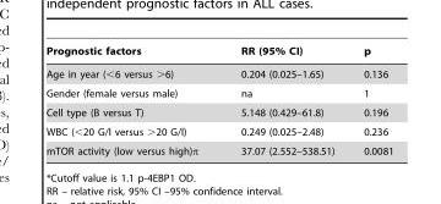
<table><thead><tr><td>Prognostic factors</td><td>RR (95% CI)</td><td>p</td></tr></thead><tbody><tr><td>Age in year (&lt;6 versus &gt;6)</td><td>0.204 (0.025–1.65)</td><td>0.136</td></tr><tr><td>Gender (female versus male)</td><td>na</td><td>1</td></tr><tr><td>Cell type (B versus T)</td><td>5.148 (0.429–61.8)</td><td>0.196</td></tr><tr><td>WBC (&lt;20 G/l versus &gt;20 G/l)</td><td>0.249 (0.025–2.48)</td><td>0.236</td></tr><tr><td>mTOR activity (low versus high)π</td><td>37.07 (2.552–538.51)</td><td>0.0081</td></tr></tbody></table>